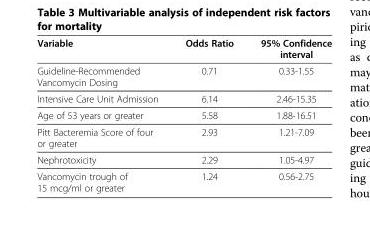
<table><thead><tr><td>Variable</td><td>Odds Ratio</td><td>95% Confidence interval</td></tr></thead><tbody><tr><td>Guideline-Recommended Vancomycin Dosing</td><td>0.71</td><td>0.33-1.55</td></tr><tr><td>Intensive Care Unit Admission</td><td>6.14</td><td>2.46-15.35</td></tr><tr><td>Age of 53 years or greater</td><td>5.58</td><td>1.88-16.51</td></tr><tr><td>Pitt Bacteremia Score of four or greater</td><td>2.93</td><td>1.21-7.09</td></tr><tr><td>Nephrotoxicity</td><td>2.29</td><td>1.05-4.97</td></tr><tr><td>Vancomycin trough of 15 mcg/ml or greater</td><td>1.24</td><td>0.56-2.75</td></tr></tbody></table>